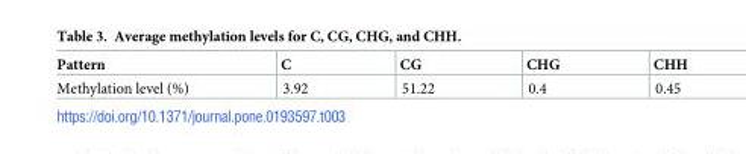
<table><thead><tr><td>Pattern</td><td>C</td><td>CG</td><td>CHG</td><td>CHH</td></tr></thead><tbody><tr><td>Methylation level (%)</td><td>3.92</td><td>51.22</td><td>0.4</td><td>0.45</td></tr></tbody></table>